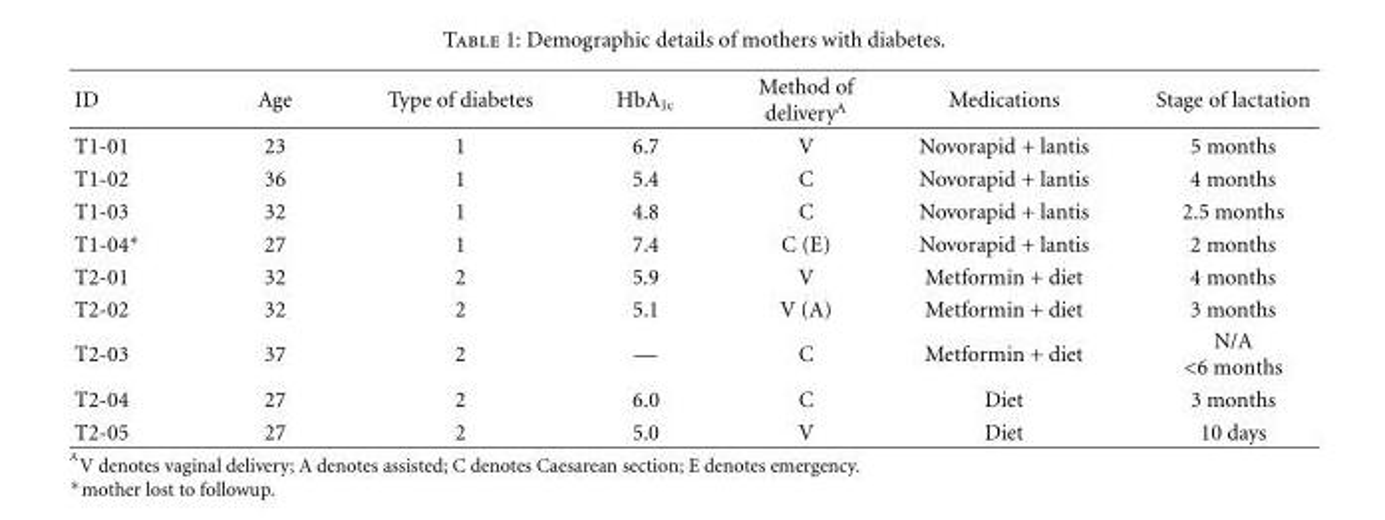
<table><thead><tr><td>ID</td><td>Age</td><td>Type of diabetes</td><td>HbA<sub>1c</sub></td><td>Method of delivery<sup>A</sup></td><td>Medications</td><td>Stage of lactation</td></tr></thead><tbody><tr><td>T1-01</td><td>23</td><td>1</td><td>6.7</td><td>V</td><td>Novorapid + lantis</td><td>5 months</td></tr><tr><td>T1-02</td><td>36</td><td>1</td><td>5.4</td><td>C</td><td>Novorapid + lantis</td><td>4 months</td></tr><tr><td>T1-03</td><td>32</td><td>1</td><td>4.8</td><td>C</td><td>Novorapid + lantis</td><td>2.5 months</td></tr><tr><td>T1-04∗</td><td>27</td><td>1</td><td>7.4</td><td>C (E)</td><td>Novorapid + lantis</td><td>2 months</td></tr><tr><td>T2-01</td><td>32</td><td>2</td><td>5.9</td><td>V</td><td>Metformin + diet</td><td>4 months</td></tr><tr><td>T2-02</td><td>32</td><td>2</td><td>5.1</td><td>V (A)</td><td>Metformin + diet</td><td>3 months</td></tr><tr><td>T2-03</td><td>37</td><td>2</td><td>—</td><td>C</td><td>Metformin + diet</td><td>N/A &lt;6 months</td></tr><tr><td>T2-04</td><td>27</td><td>2</td><td>6.0</td><td>C</td><td>Diet</td><td>3 months</td></tr><tr><td>T2-05</td><td>27</td><td>2</td><td>5.0</td><td>V</td><td>Diet</td><td>10 days</td></tr></tbody></table>